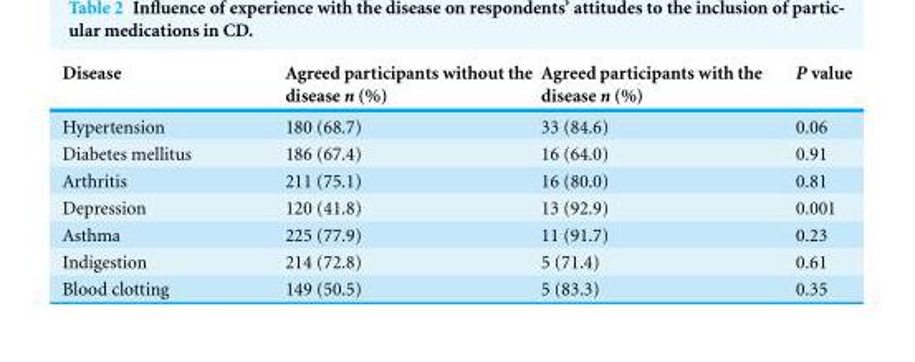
<table><thead><tr><td>Disease</td><td>Agreed participants without the disease n (%)</td><td>Agreed participants with the disease n (%)</td><td>P value</td></tr></thead><tbody><tr><td>Hypertension</td><td>180 (68.7)</td><td>33 (84.6)</td><td>0.06</td></tr><tr><td>Diabetes mellitus</td><td>186 (67.4)</td><td>16 (64.0)</td><td>0.91</td></tr><tr><td>Arthritis</td><td>211 (75.1)</td><td>16 (80.0)</td><td>0.81</td></tr><tr><td>Depression</td><td>120 (41.8)</td><td>13 (92.9)</td><td>0.001</td></tr><tr><td>Asthma</td><td>225 (77.9)</td><td>11 (91.7)</td><td>0.23</td></tr><tr><td>Indigestion</td><td>214 (72.8)</td><td>5 (71.4)</td><td>0.61</td></tr><tr><td>Blood clotting</td><td>149 (50.5)</td><td>5 (83.3)</td><td>0.35</td></tr></tbody></table>